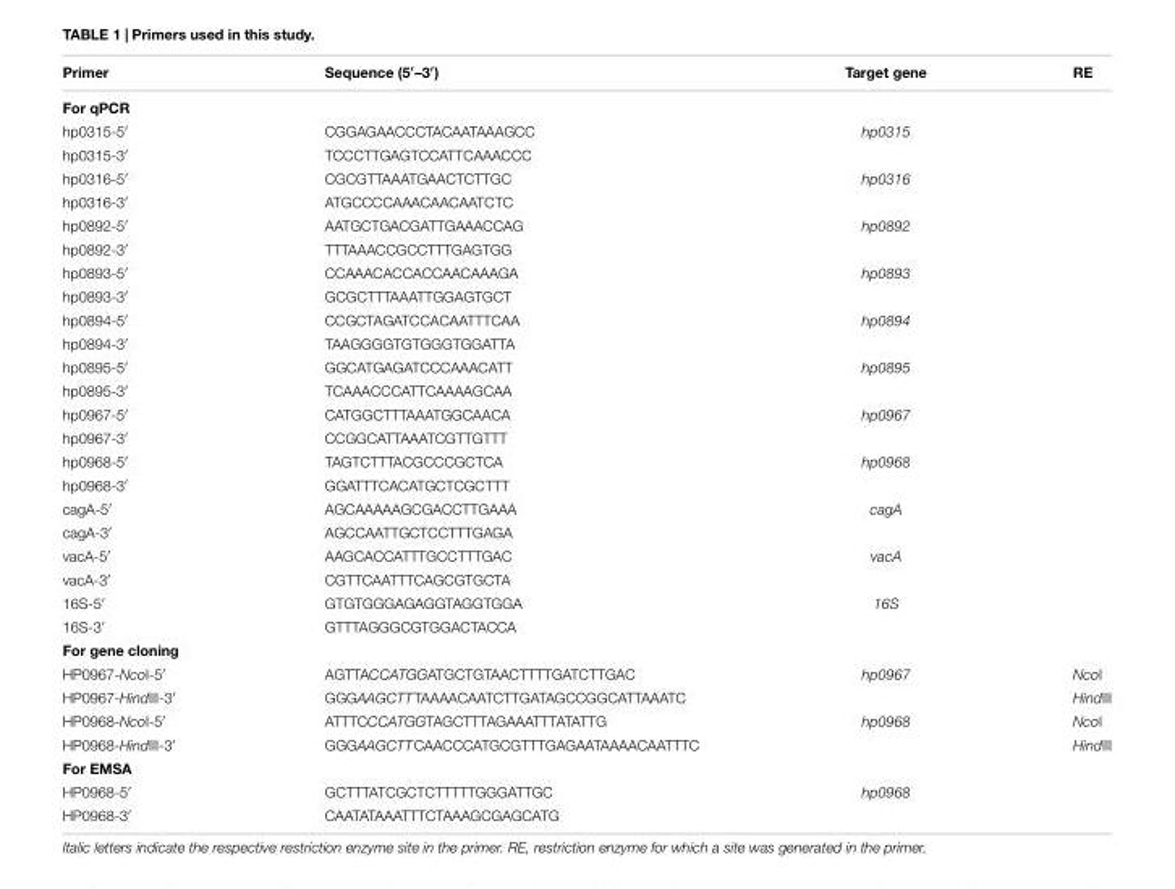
<table><thead><tr><td>Primer</td><td>Sequence (5′–3′)</td><td>Target gene</td><td>RE</td></tr></thead><tbody><tr><td colspan="4">For qPCR</td></tr><tr><td>hp0315-5′</td><td>CGGAGAACCCTACAATAAAGCC</td><td>hp0315</td><td></td></tr><tr><td>hp0315-3′</td><td>TCCCTTGAGTCCATTCAAACCC</td><td></td><td></td></tr><tr><td>hp0316-5′</td><td>CGCGTTAAATGAACTCTTGC</td><td>hp0316</td><td></td></tr><tr><td>hp0316-3′</td><td>ATGCCCCAAACAACAATCTC</td><td></td><td></td></tr><tr><td>hp0892-5′</td><td>AATGCTGACGATTGAAACCAG</td><td>hp0892</td><td></td></tr><tr><td>hp0892-3′</td><td>TTTAAACCGCCTTTGAGTGG</td><td></td><td></td></tr><tr><td>hp0893-5′</td><td>CCAAACACCACCAACAAAGA</td><td>hp0893</td><td></td></tr><tr><td>hp0893-3′</td><td>GCGCTTTAAATTGGAGTGCT</td><td></td><td></td></tr><tr><td>hp0894-5′</td><td>CCGCTAGATCCACAATTTCAA</td><td>hp0894</td><td></td></tr><tr><td>hp0894-3′</td><td>TAAGGGGTGTGGGTGGATTA</td><td></td><td></td></tr><tr><td>hp0895-5′</td><td>GGCATGAGATCCCAAACATT</td><td>hp0895</td><td></td></tr><tr><td>hp0895-3′</td><td>TCAAACCCATTCAAAAGCAA</td><td></td><td></td></tr><tr><td>hp0967-5′</td><td>CATGGCTTTAAATGGCAACA</td><td>hp0967</td><td></td></tr><tr><td>hp0967-3′</td><td>CCGGCATTAAATCGTTGTTT</td><td></td><td></td></tr><tr><td>hp0968-5′</td><td>TAGTCTTTACGCCCGCTCA</td><td>hp0968</td><td></td></tr><tr><td>hp0968-3′</td><td>GGATTTCACATGCTCGCTTT</td><td></td><td></td></tr><tr><td>cagA-5′</td><td>AGCAAAAAGCGACCTTGAAA</td><td>cagA</td><td></td></tr><tr><td>cagA-3′</td><td>AGCCAATTGCTCCTTTGAGA</td><td></td><td></td></tr><tr><td>vacA-5′</td><td>AAGCACCATTTGCCTTTGAC</td><td>vacA</td><td></td></tr><tr><td>vacA-3′</td><td>CGTTCAATTTCAGCGTGCTA</td><td></td><td></td></tr><tr><td>16S-5′</td><td>GTGTGGGAGAGGTAGGTGGA</td><td>16S</td><td></td></tr><tr><td>16S-3′</td><td>GTTTAGGGCGTGGACTACCA</td><td></td><td></td></tr><tr><td colspan="4">For gene cloning</td></tr><tr><td>HP0967-NcoI-5′</td><td>AGTTACCATGGATGCTGTAACTTTTGATCTTGAC</td><td>hp0967</td><td>NcoI</td></tr><tr><td>HP0967-HindIII-3′</td><td>GGGAAGCTTTAAAACAATCTTGATAGCCGGCATTAAATC</td><td></td><td>HindIII</td></tr><tr><td>HP0968-NcoI-5′</td><td>ATTTCCCATGGTAGCTTTAGAAATTTATATTG</td><td>hp0968</td><td>NcoI</td></tr><tr><td>HP0968-HindIII-3′</td><td>GGGAAGCTTCAACCCATGCGTTTGAGAATAAAACAATTTC</td><td></td><td>HindIII</td></tr><tr><td colspan="4">For EMSA</td></tr><tr><td>HP0968-5′</td><td>GCTTTATCGCTCTTTTTGGGATTGC</td><td>hp0968</td><td></td></tr><tr><td>HP0968-3′</td><td>CAATATAAATTTCTAAAGCGAGCATG</td><td></td><td></td></tr></tbody></table>